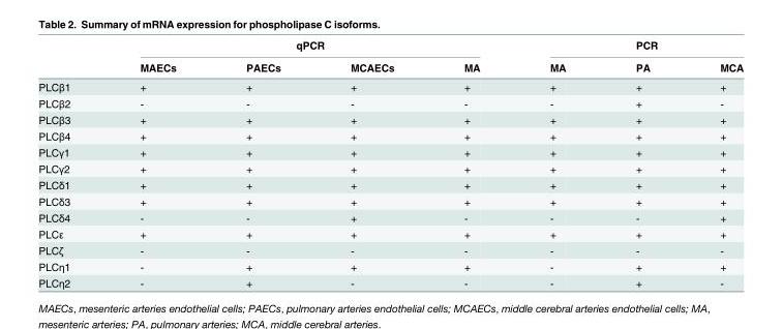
<table><thead><tr><td rowspan="2"></td><td colspan="4">qPCR</td><td colspan="3">PCR</td></tr><tr><td>MAECs</td><td>PAECs</td><td>MCAECs</td><td>MA</td><td>MA</td><td>PA</td><td>MCA</td></tr></thead><tbody><tr><td>PLCβ1</td><td>+</td><td>+</td><td>+</td><td>+</td><td>+</td><td>+</td><td>+</td></tr><tr><td>PLCβ2</td><td>-</td><td>-</td><td>-</td><td>-</td><td>-</td><td>+</td><td>-</td></tr><tr><td>PLCβ3</td><td>+</td><td>+</td><td>+</td><td>+</td><td>+</td><td>+</td><td>+</td></tr><tr><td>PLCβ4</td><td>+</td><td>+</td><td>+</td><td>+</td><td>+</td><td>+</td><td>+</td></tr><tr><td>PLCγ1</td><td>+</td><td>+</td><td>+</td><td>+</td><td>+</td><td>+</td><td>+</td></tr><tr><td>PLCγ2</td><td>+</td><td>+</td><td>+</td><td>+</td><td>+</td><td>+</td><td>+</td></tr><tr><td>PLCδ1</td><td>+</td><td>+</td><td>+</td><td>+</td><td>+</td><td>+</td><td>+</td></tr><tr><td>PLCδ3</td><td>+</td><td>+</td><td>+</td><td>+</td><td>+</td><td>+</td><td>+</td></tr><tr><td>PLCδ4</td><td>-</td><td>-</td><td>+</td><td>-</td><td>-</td><td>-</td><td>+</td></tr><tr><td>PLCε</td><td>+</td><td>+</td><td>+</td><td>+</td><td>+</td><td>+</td><td>+</td></tr><tr><td>PLCζ</td><td>-</td><td>-</td><td>-</td><td>-</td><td>-</td><td>-</td><td>-</td></tr><tr><td>PLCη1</td><td>-</td><td>+</td><td>+</td><td>+</td><td>-</td><td>+</td><td>+</td></tr><tr><td>PLCη2</td><td>-</td><td>+</td><td>-</td><td>-</td><td>-</td><td>+</td><td>-</td></tr></tbody></table>